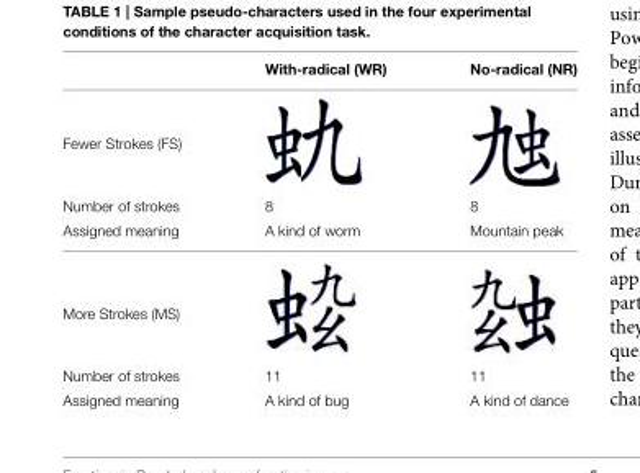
<table><thead><tr><td></td><td>With-radical (WR)</td><td>No-radical (NR)</td></tr></thead><tbody><tr><td colspan="3">Fewer Strokes (FS)</td></tr><tr><td>Number of strokes</td><td>8</td><td>8</td></tr><tr><td>Assigned meaning</td><td>A kind of worm</td><td>Mountain peak</td></tr><tr><td colspan="3">More Strokes (MS)</td></tr><tr><td>Number of strokes</td><td>11</td><td>11</td></tr><tr><td>Assigned meaning</td><td>A kind of bug</td><td>A kind of dance</td></tr></tbody></table>